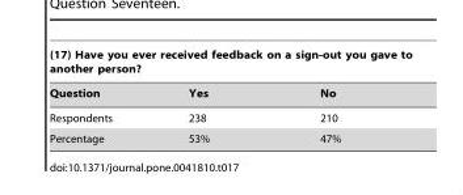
<table><thead><tr><td colspan="3">(17) Have you ever received feedback on a sign-out you gave to another person?</td></tr><tr><td>Question</td><td>Yes</td><td>No</td></tr></thead><tbody><tr><td>Respondents</td><td>238</td><td>210</td></tr><tr><td>Percentage</td><td>53%</td><td>47%</td></tr></tbody></table>